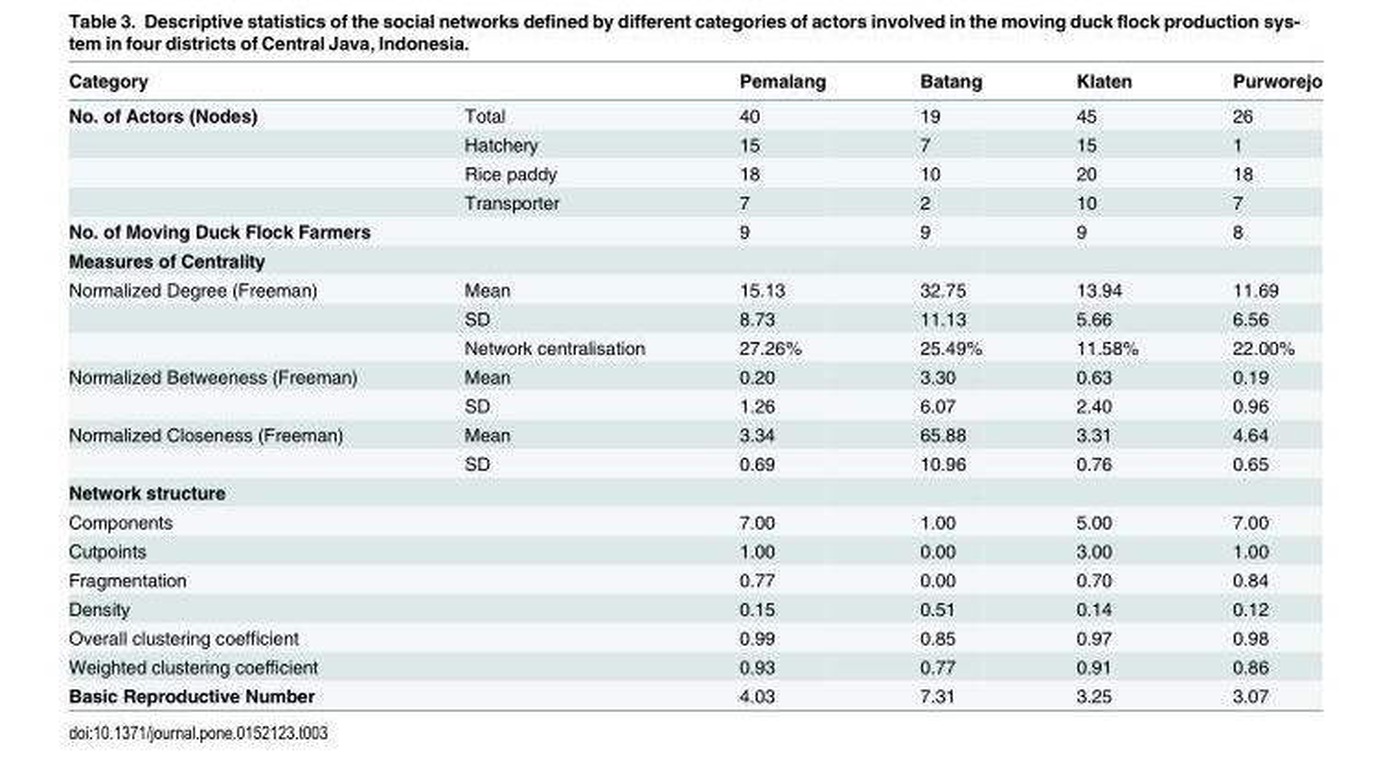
<table><thead><tr><td>Category</td><td></td><td>Pemalang</td><td>Batang</td><td>Klaten</td><td>Purworejo</td></tr></thead><tbody><tr><td rowspan="4">No. of Actors (Nodes)</td><td>Total</td><td>40</td><td>19</td><td>45</td><td>26</td></tr><tr><td>Hatchery</td><td>15</td><td>7</td><td>15</td><td>1</td></tr><tr><td>Rice paddy</td><td>18</td><td>10</td><td>20</td><td>18</td></tr><tr><td>Transporter</td><td>7</td><td>2</td><td>10</td><td>7</td></tr><tr><td>No. of Moving Duck Flock Farmers</td><td></td><td>9</td><td>9</td><td>9</td><td>8</td></tr><tr><td colspan="6">Measures of Centrality</td></tr><tr><td rowspan="3">Normalized Degree (Freeman)</td><td>Mean</td><td>15.13</td><td>32.75</td><td>13.94</td><td>11.69</td></tr><tr><td>SD</td><td>8.73</td><td>11.13</td><td>5.66</td><td>6.56</td></tr><tr><td>Network centralisation</td><td>27.26%</td><td>25.49%</td><td>11.58%</td><td>22.00%</td></tr><tr><td rowspan="2">Normalized Betweeness (Freeman)</td><td>Mean</td><td>0.20</td><td>3.30</td><td>0.63</td><td>0.19</td></tr><tr><td>SD</td><td>1.26</td><td>6.07</td><td>2.40</td><td>0.96</td></tr><tr><td rowspan="2">Normalized Closeness (Freeman)</td><td>Mean</td><td>3.34</td><td>65.88</td><td>3.31</td><td>4.64</td></tr><tr><td>SD</td><td>0.69</td><td>10.96</td><td>0.76</td><td>0.65</td></tr><tr><td colspan="6">Network structure</td></tr><tr><td>Components</td><td></td><td>7.00</td><td>1.00</td><td>5.00</td><td>7.00</td></tr><tr><td>Cutpoints</td><td></td><td>1.00</td><td>0.00</td><td>3.00</td><td>1.00</td></tr><tr><td>Fragmentation</td><td></td><td>0.77</td><td>0.00</td><td>0.70</td><td>0.84</td></tr><tr><td>Density</td><td></td><td>0.15</td><td>0.51</td><td>0.14</td><td>0.12</td></tr><tr><td>Overall clustering coefficient</td><td></td><td>0.99</td><td>0.85</td><td>0.97</td><td>0.98</td></tr><tr><td>Weighted clustering coefficient</td><td></td><td>0.93</td><td>0.77</td><td>0.91</td><td>0.86</td></tr><tr><td>Basic Reproductive Number</td><td></td><td>4.03</td><td>7.31</td><td>3.25</td><td>3.07</td></tr></tbody></table>